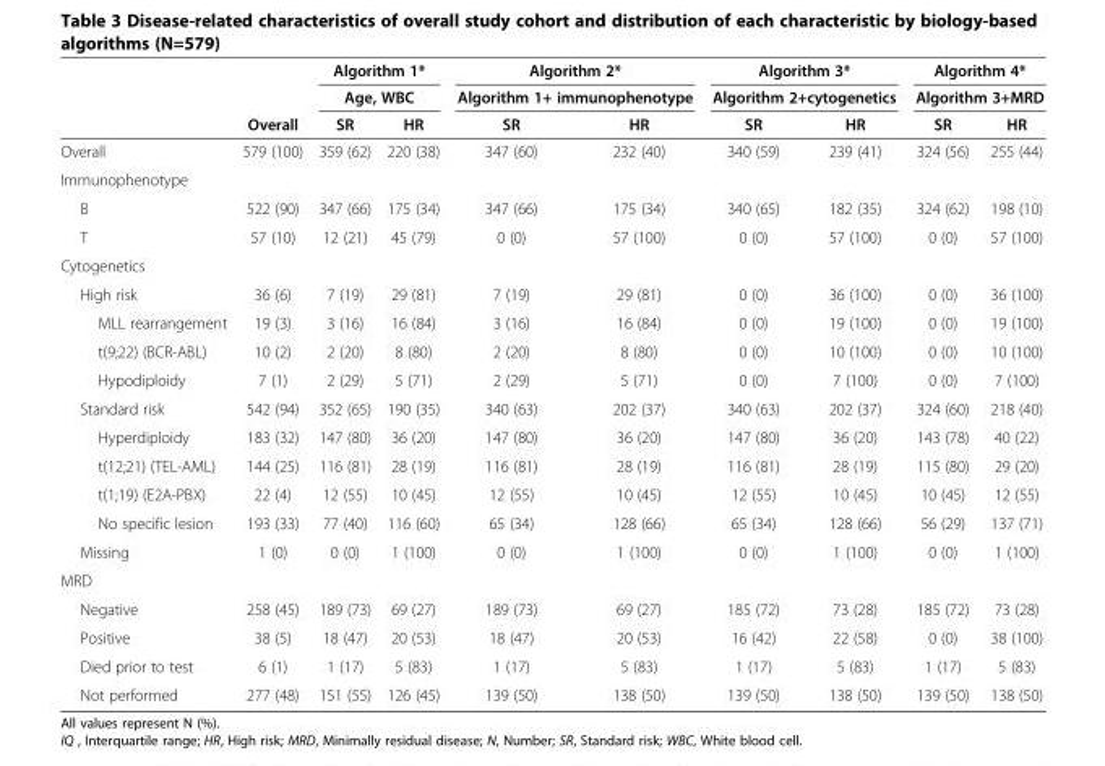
<table><thead><tr><td rowspan="3"></td><td rowspan="3">Overall</td><td rowspan="2" colspan="2">Algorithm 1* Age, WBC</td><td rowspan="2" colspan="2">Algorithm 2* Algorithm 1+ immunophenotype</td><td rowspan="2" colspan="2">Algorithm 3* Algorithm 2+cytogenetics</td><td rowspan="2" colspan="2">Algorithm 4* Algorithm 3+MRD</td></tr><tr></tr><tr><td>SR</td><td>HR</td><td>SR</td><td>HR</td><td>SR</td><td>HR</td><td>SR</td><td>HR</td></tr></thead><tbody><tr><td>Overall</td><td>579 (100)</td><td>359 (62)</td><td>220 (38)</td><td>347 (60)</td><td>232 (40)</td><td>340 (59)</td><td>239 (41)</td><td>324 (56)</td><td>255 (44)</td></tr><tr><td colspan="10">Immunophenotype</td></tr><tr><td>B</td><td>522 (90)</td><td>347 (66)</td><td>175 (34)</td><td>347 (66)</td><td>175 (34)</td><td>340 (65)</td><td>182 (35)</td><td>324 (62)</td><td>198 (10)</td></tr><tr><td>T</td><td>57 (10)</td><td>12 (21)</td><td>45 (79)</td><td>0 (0)</td><td>57 (100)</td><td>0 (0)</td><td>57 (100)</td><td>0 (0)</td><td>57 (100)</td></tr><tr><td colspan="10">Cytogenetics</td></tr><tr><td>High risk</td><td>36 (6)</td><td>7 (19)</td><td>29 (81)</td><td>7 (19)</td><td>29 (81)</td><td>0 (0)</td><td>36 (100)</td><td>0 (0)</td><td>36 (100)</td></tr><tr><td>MLL rearrangement</td><td>19 (3)</td><td>3 (16)</td><td>16 (84)</td><td>3 (16)</td><td>16 (84)</td><td>0 (0)</td><td>19 (100)</td><td>0 (0)</td><td>19 (100)</td></tr><tr><td>t(9;22) (BCR-ABL)</td><td>10 (2)</td><td>2 (20)</td><td>8 (80)</td><td>2 (20)</td><td>8 (80)</td><td>0 (0)</td><td>10 (100)</td><td>0 (0)</td><td>10 (100)</td></tr><tr><td>Hypodiploidy</td><td>7 (1)</td><td>2 (29)</td><td>5 (71)</td><td>2 (29)</td><td>5 (71)</td><td>0 (0)</td><td>7 (100)</td><td>0 (0)</td><td>7 (100)</td></tr><tr><td>Standard risk</td><td>542 (94)</td><td>352 (65)</td><td>190 (35)</td><td>340 (63)</td><td>202 (37)</td><td>340 (63)</td><td>202 (37)</td><td>324 (60)</td><td>218 (40)</td></tr><tr><td>Hyperdiploidy</td><td>183 (32)</td><td>147 (80)</td><td>36 (20)</td><td>147 (80)</td><td>36 (20)</td><td>147 (80)</td><td>36 (20)</td><td>143 (78)</td><td>40 (22)</td></tr><tr><td>t(12;21) (TEL-AML)</td><td>144 (25)</td><td>116 (81)</td><td>28 (19)</td><td>116 (81)</td><td>28 (19)</td><td>116 (81)</td><td>28 (19)</td><td>115 (80)</td><td>29 (20)</td></tr><tr><td>t(1;19) (E2A-PBX)</td><td>22 (4)</td><td>12 (55)</td><td>10 (45)</td><td>12 (55)</td><td>10 (45)</td><td>12 (55)</td><td>10 (45)</td><td>10 (45)</td><td>12 (55)</td></tr><tr><td>No specific lesion</td><td>193 (33)</td><td>77 (40)</td><td>116 (60)</td><td>65 (34)</td><td>128 (66)</td><td>65 (34)</td><td>128 (66)</td><td>56 (29)</td><td>137 (71)</td></tr><tr><td>Missing</td><td>1 (0)</td><td>0 (0)</td><td>1 (100)</td><td>0 (0)</td><td>1 (100)</td><td>0 (0)</td><td>1 (100)</td><td>0 (0)</td><td>1 (100)</td></tr><tr><td colspan="10">MRD</td></tr><tr><td>Negative</td><td>258 (45)</td><td>189 (73)</td><td>69 (27)</td><td>189 (73)</td><td>69 (27)</td><td>185 (72)</td><td>73 (28)</td><td>185 (72)</td><td>73 (28)</td></tr><tr><td>Positive</td><td>38 (5)</td><td>18 (47)</td><td>20 (53)</td><td>18 (47)</td><td>20 (53)</td><td>16 (42)</td><td>22 (58)</td><td>0 (0)</td><td>38 (100)</td></tr><tr><td>Died prior to test</td><td>6 (1)</td><td>1 (17)</td><td>5 (83)</td><td>1 (17)</td><td>5 (83)</td><td>1 (17)</td><td>5 (83)</td><td>1 (17)</td><td>5 (83)</td></tr><tr><td>Not performed</td><td>277 (48)</td><td>151 (55)</td><td>126 (45)</td><td>139 (50)</td><td>138 (50)</td><td>139 (50)</td><td>138 (50)</td><td>139 (50)</td><td>138 (50)</td></tr></tbody></table>